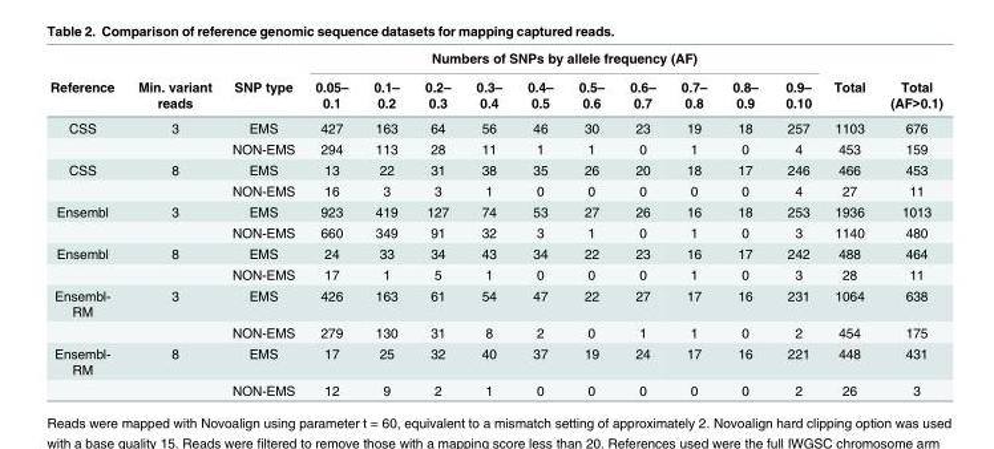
<table><thead><tr><td rowspan="2">Reference</td><td rowspan="2">Min. variant reads</td><td rowspan="2">SNP type</td><td colspan="10">Numbers of SNPs by allele frequency (AF)</td><td rowspan="2">Total</td><td rowspan="2">Total (AF&gt;0.1)</td></tr><tr><td>0.05– 0.1</td><td>0.1– 0.2</td><td>0.2– 0.3</td><td>0.3– 0.4</td><td>0.4– 0.5</td><td>0.5– 0.6</td><td>0.6– 0.7</td><td>0.7– 0.8</td><td>0.8– 0.9</td><td>0.9– 0.10</td></tr></thead><tbody><tr><td rowspan="2">CSS</td><td>3</td><td>EMS</td><td>427</td><td>163</td><td>64</td><td>56</td><td>46</td><td>30</td><td>23</td><td>19</td><td>18</td><td>257</td><td>1103</td><td>676</td></tr><tr><td></td><td>NON-EMS</td><td>294</td><td>113</td><td>28</td><td>11</td><td>1</td><td>1</td><td>0</td><td>1</td><td>0</td><td>4</td><td>453</td><td>159</td></tr><tr><td rowspan="2">CSS</td><td>8</td><td>EMS</td><td>13</td><td>22</td><td>31</td><td>38</td><td>35</td><td>26</td><td>20</td><td>18</td><td>17</td><td>246</td><td>466</td><td>453</td></tr><tr><td></td><td>NON-EMS</td><td>16</td><td>3</td><td>3</td><td>1</td><td>0</td><td>0</td><td>0</td><td>0</td><td>0</td><td>4</td><td>27</td><td>11</td></tr><tr><td rowspan="2">Ensembl</td><td>3</td><td>EMS</td><td>923</td><td>419</td><td>127</td><td>74</td><td>53</td><td>27</td><td>26</td><td>16</td><td>18</td><td>253</td><td>1936</td><td>1013</td></tr><tr><td></td><td>NON-EMS</td><td>660</td><td>349</td><td>91</td><td>32</td><td>3</td><td>1</td><td>0</td><td>1</td><td>0</td><td>3</td><td>1140</td><td>480</td></tr><tr><td rowspan="2">Ensembl</td><td>8</td><td>EMS</td><td>24</td><td>33</td><td>34</td><td>43</td><td>34</td><td>22</td><td>23</td><td>16</td><td>17</td><td>242</td><td>488</td><td>464</td></tr><tr><td></td><td>NON-EMS</td><td>17</td><td>1</td><td>5</td><td>1</td><td>0</td><td>0</td><td>0</td><td>1</td><td>0</td><td>3</td><td>28</td><td>11</td></tr><tr><td rowspan="2">Ensembl- RM</td><td>3</td><td>EMS</td><td>426</td><td>163</td><td>61</td><td>54</td><td>47</td><td>22</td><td>27</td><td>17</td><td>16</td><td>231</td><td>1064</td><td>638</td></tr><tr><td></td><td>NON-EMS</td><td>279</td><td>130</td><td>31</td><td>8</td><td>2</td><td>0</td><td>1</td><td>1</td><td>0</td><td>2</td><td>454</td><td>175</td></tr><tr><td rowspan="2">Ensembl- RM</td><td>8</td><td>EMS</td><td>17</td><td>25</td><td>32</td><td>40</td><td>37</td><td>19</td><td>24</td><td>17</td><td>16</td><td>221</td><td>448</td><td>431</td></tr><tr><td></td><td>NON-EMS</td><td>12</td><td>9</td><td>2</td><td>1</td><td>0</td><td>0</td><td>0</td><td>0</td><td>0</td><td>2</td><td>26</td><td>3</td></tr></tbody></table>